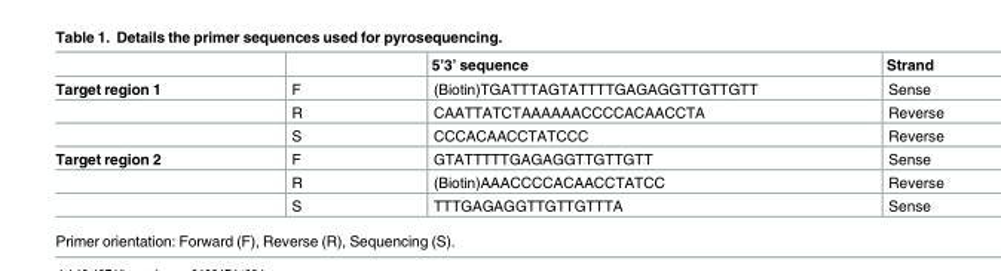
<table><thead><tr><td></td><td></td><td>5’3’ sequence</td><td>Strand</td></tr></thead><tbody><tr><td rowspan="3">Target region 1</td><td>F</td><td>(Biotin)TGATTTAGTATTTTGAGAGGTTGTTGTT</td><td>Sense</td></tr><tr><td>R</td><td>CAATTATCTAAAAAACCCCACAACCTA</td><td>Reverse</td></tr><tr><td>S</td><td>CCCACAACCTATCCC</td><td>Reverse</td></tr><tr><td rowspan="3">Target region 2</td><td>F</td><td>GTATTTTTGAGAGGTTGTTGTT</td><td>Sense</td></tr><tr><td>R</td><td>(Biotin)AAACCCCACAACCTATCC</td><td>Reverse</td></tr><tr><td>S</td><td>TTTGAGAGGTTGTTGTTTA</td><td>Sense</td></tr></tbody></table>